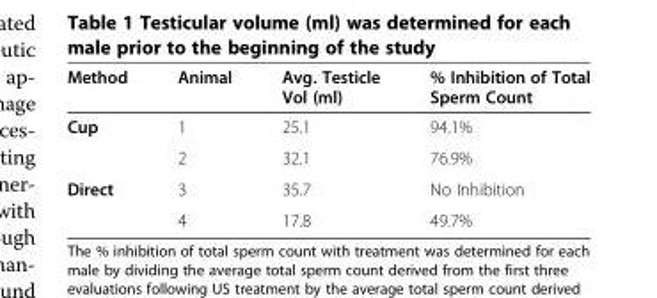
<table><thead><tr><td>Method</td><td>Animal</td><td>Avg. Testicle Vol (ml)</td><td>% Inhibition of Total Sperm Count</td></tr></thead><tbody><tr><td rowspan="2">Cup</td><td>1</td><td>25.1</td><td>94.1%</td></tr><tr><td>2</td><td>32.1</td><td>76.9%</td></tr><tr><td rowspan="2">Direct</td><td>3</td><td>35.7</td><td>No Inhibition</td></tr><tr><td>4</td><td>17.8</td><td>49.7%</td></tr></tbody></table>